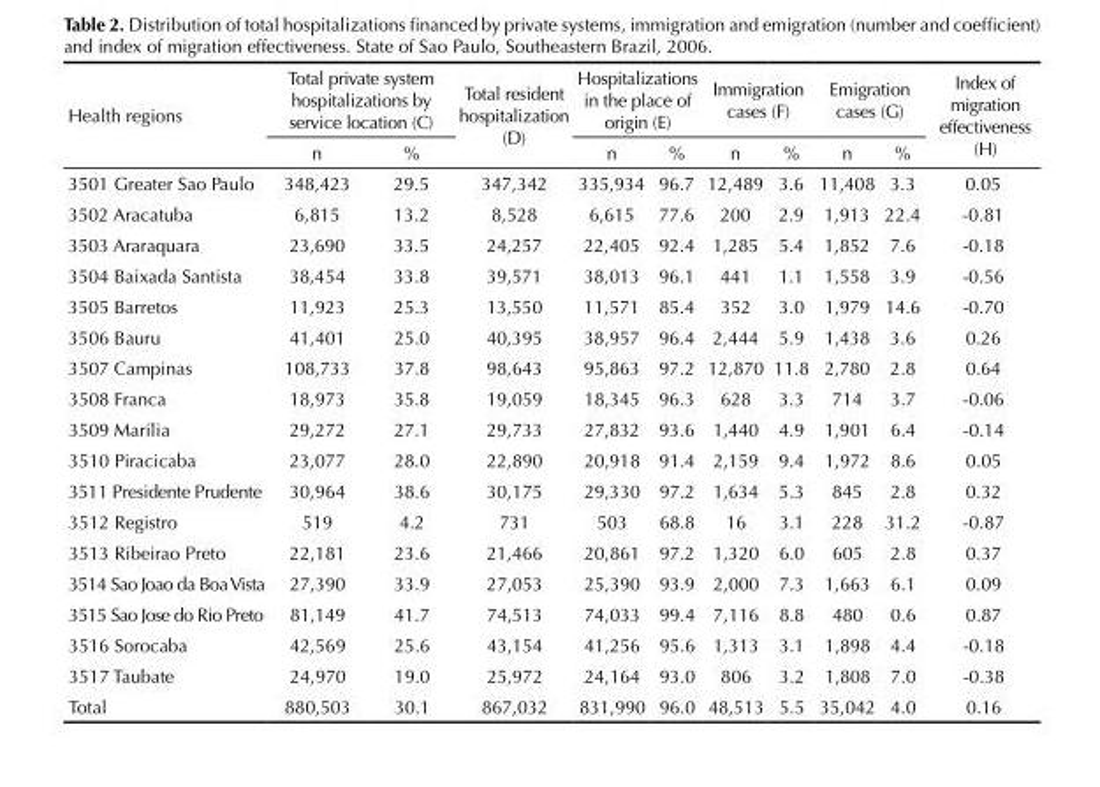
<table><thead><tr><td rowspan="2">Health regions</td><td colspan="2">Total private system hospitalizations by service location (C)</td><td rowspan="2">Total resident hospitalization (D)</td><td colspan="2">Hospitalizations in the place of origin (E)</td><td colspan="2">Immigration cases (F)</td><td colspan="2">Emigration cases (G)</td><td rowspan="2">Index of migration effectiveness (H)</td></tr><tr><td>n</td><td>%</td><td>n</td><td>%</td><td>n</td><td>%</td><td>n</td><td>%</td></tr></thead><tbody><tr><td>3501 Greater Sao Paulo</td><td>348,423</td><td>29.5</td><td>347,342</td><td>335,934</td><td>96.7</td><td>12,489</td><td>3.6</td><td>11,408</td><td>3.3</td><td>0.05</td></tr><tr><td>3502 Aracatuba</td><td>6,815</td><td>13.2</td><td>8,528</td><td>6,615</td><td>77.6</td><td>200</td><td>2.9</td><td>1,913</td><td>22.4</td><td>-0.81</td></tr><tr><td>3503 Araraquara</td><td>23,690</td><td>33.5</td><td>24,257</td><td>22,405</td><td>92.4</td><td>1,285</td><td>5.4</td><td>1,852</td><td>7.6</td><td>-0.18</td></tr><tr><td>3504 Baixada Santista</td><td>38,454</td><td>33.8</td><td>39,571</td><td>38,013</td><td>96.1</td><td>441</td><td>1.1</td><td>1,558</td><td>3.9</td><td>-0.56</td></tr><tr><td>3505 Barretos</td><td>11,923</td><td>25.3</td><td>13,550</td><td>11,571</td><td>85.4</td><td>352</td><td>3.0</td><td>1,979</td><td>14.6</td><td>-0.70</td></tr><tr><td>3506 Bauru</td><td>41,401</td><td>25.0</td><td>40,395</td><td>38,957</td><td>96.4</td><td>2,444</td><td>5.9</td><td>1,438</td><td>3.6</td><td>0.26</td></tr><tr><td>3507 Campinas</td><td>108,733</td><td>37.8</td><td>98,643</td><td>95,863</td><td>97.2</td><td>12,870</td><td>11.8</td><td>2,780</td><td>2.8</td><td>0.64</td></tr><tr><td>3508 Franca</td><td>18,973</td><td>35.8</td><td>19,059</td><td>18,345</td><td>96.3</td><td>628</td><td>3.3</td><td>714</td><td>3.7</td><td>-0.06</td></tr><tr><td>3509 Marilia</td><td>29,272</td><td>27.1</td><td>29,733</td><td>27,832</td><td>93.6</td><td>1,440</td><td>4.9</td><td>1,901</td><td>6.4</td><td>-0.14</td></tr><tr><td>3510 Piracicaba</td><td>23,077</td><td>28.0</td><td>22,890</td><td>20,918</td><td>91.4</td><td>2,159</td><td>9.4</td><td>1,972</td><td>8.6</td><td>0.05</td></tr><tr><td>3511 Presidente Prudente</td><td>30,964</td><td>38.6</td><td>30,175</td><td>29,330</td><td>97.2</td><td>1,634</td><td>5.3</td><td>845</td><td>2.8</td><td>0.32</td></tr><tr><td>3512 Registro</td><td>519</td><td>4.2</td><td>731</td><td>503</td><td>68.8</td><td>16</td><td>3.1</td><td>228</td><td>31.2</td><td>-0.87</td></tr><tr><td>3513 Ribeirao Preto</td><td>22,181</td><td>23.6</td><td>21,466</td><td>20,861</td><td>97.2</td><td>1,320</td><td>6.0</td><td>605</td><td>2.8</td><td>0.37</td></tr><tr><td>3514 Sao Joao da Boa Vista</td><td>27,390</td><td>33.9</td><td>27,053</td><td>25,390</td><td>93.9</td><td>2,000</td><td>7.3</td><td>1,663</td><td>6.1</td><td>0.09</td></tr><tr><td>3515 Sao Jose do Rio Preto</td><td>81,149</td><td>41.7</td><td>74,513</td><td>74,033</td><td>99.4</td><td>7,116</td><td>8.8</td><td>480</td><td>0.6</td><td>0.87</td></tr><tr><td>3516 Sorocaba</td><td>42,569</td><td>25.6</td><td>43,154</td><td>41,256</td><td>95.6</td><td>1,313</td><td>3.1</td><td>1,898</td><td>4.4</td><td>-0.18</td></tr><tr><td>3517 Taubate</td><td>24,970</td><td>19.0</td><td>25,972</td><td>24,164</td><td>93.0</td><td>806</td><td>3.2</td><td>1,808</td><td>7.0</td><td>-0.38</td></tr><tr><td>Total</td><td>880,503</td><td>30.1</td><td>867,032</td><td>831,990</td><td>96.0</td><td>48,513</td><td>5.5</td><td>35,042</td><td>4.0</td><td>0.16</td></tr></tbody></table>